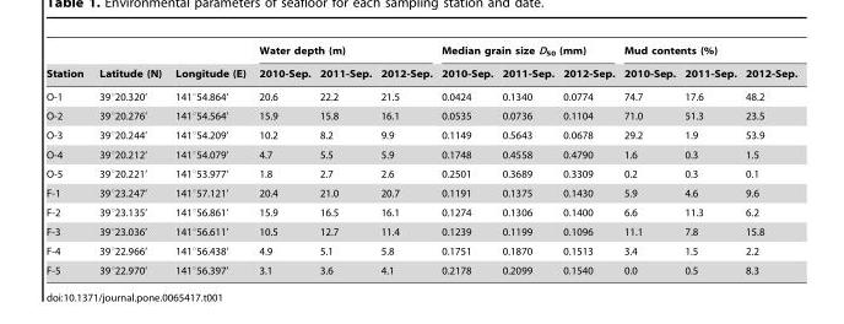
<table><thead><tr><td rowspan="2">Station</td><td rowspan="2">Latitude (N)</td><td rowspan="2">Longitude (E)</td><td colspan="3">Water depth (m)</td><td colspan="3">Median grain size D<sub>50</sub> (mm)</td><td colspan="3">Mud contents (%)</td></tr><tr><td>2010-Sep.</td><td>2011-Sep.</td><td>2012-Sep.</td><td>2010-Sep.</td><td>2011-Sep.</td><td>2012-Sep.</td><td>2010-Sep.</td><td>2011-Sep.</td><td>2012-Sep.</td></tr></thead><tbody><tr><td>O-1</td><td>39°20.320’</td><td>141°54.864’</td><td>20.6</td><td>22.2</td><td>21.5</td><td>0.0424</td><td>0.1340</td><td>0.0774</td><td>74.7</td><td>17.6</td><td>48.2</td></tr><tr><td>O-2</td><td>39°20.276’</td><td>141°54.564’</td><td>15.9</td><td>15.8</td><td>16.1</td><td>0.0535</td><td>0.0736</td><td>0.1104</td><td>71.0</td><td>51.3</td><td>23.5</td></tr><tr><td>O-3</td><td>39°20.244’</td><td>141°54.209’</td><td>10.2</td><td>8.2</td><td>9.9</td><td>0.1149</td><td>0.5643</td><td>0.0678</td><td>29.2</td><td>1.9</td><td>53.9</td></tr><tr><td>O-4</td><td>39°20.212’</td><td>141°54.079’</td><td>4.7</td><td>5.5</td><td>5.9</td><td>0.1748</td><td>0.4558</td><td>0.4790</td><td>1.6</td><td>0.3</td><td>1.5</td></tr><tr><td>O-5</td><td>39°20.221’</td><td>141°53.977’</td><td>1.8</td><td>2.7</td><td>2.6</td><td>0.2501</td><td>0.3689</td><td>0.3309</td><td>0.2</td><td>0.3</td><td>0.1</td></tr><tr><td>F-1</td><td>39°23.247’</td><td>141°57.121’</td><td>20.4</td><td>21.0</td><td>20.7</td><td>0.1191</td><td>0.1375</td><td>0.1430</td><td>5.9</td><td>4.6</td><td>9.6</td></tr><tr><td>F-2</td><td>39°23.135’</td><td>141°56.861’</td><td>15.9</td><td>16.5</td><td>16.1</td><td>0.1274</td><td>0.1306</td><td>0.1400</td><td>6.6</td><td>11.3</td><td>6.2</td></tr><tr><td>F-3</td><td>39°23.036’</td><td>141°56.611’</td><td>10.5</td><td>12.7</td><td>11.4</td><td>0.1239</td><td>0.1199</td><td>0.1096</td><td>11.1</td><td>7.8</td><td>15.8</td></tr><tr><td>F-4</td><td>39°22.966’</td><td>141°56.438’</td><td>4.9</td><td>5.1</td><td>5.8</td><td>0.1751</td><td>0.1870</td><td>0.1513</td><td>3.4</td><td>1.5</td><td>2.2</td></tr><tr><td>F-5</td><td>39°22.970’</td><td>141°56.397’</td><td>3.1</td><td>3.6</td><td>4.1</td><td>0.2178</td><td>0.2099</td><td>0.1540</td><td>0.0</td><td>0.5</td><td>8.3</td></tr></tbody></table>